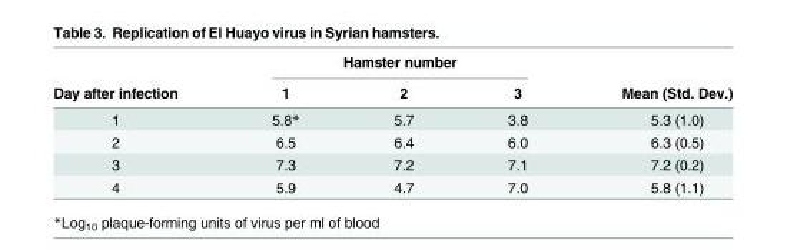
<table><thead><tr><td rowspan="2">Day after infection</td><td colspan="3">Hamster number</td><td rowspan="2">Mean (Std. Dev.)</td></tr><tr><td>1</td><td>2</td><td>3</td></tr></thead><tbody><tr><td>1</td><td>5.8*</td><td>5.7</td><td>3.8</td><td>5.3 (1.0)</td></tr><tr><td>2</td><td>6.5</td><td>6.4</td><td>6.0</td><td>6.3 (0.5)</td></tr><tr><td>3</td><td>7.3</td><td>7.2</td><td>7.1</td><td>7.2 (0.2)</td></tr><tr><td>4</td><td>5.9</td><td>4.7</td><td>7.0</td><td>5.8 (1.1)</td></tr></tbody></table>